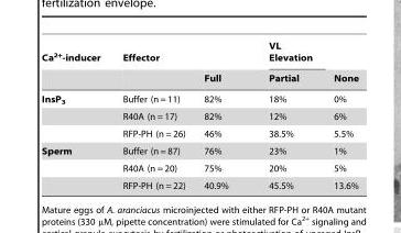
<table><thead><tr><td rowspan="2">Ca<sup>2+</sup>-inducer</td><td rowspan="2">Effector</td><td rowspan="2">Full</td><td rowspan="2">VL Elevation Partial</td><td rowspan="2">None</td></tr><tr></tr></thead><tbody><tr><td rowspan="3">InsP<sub>3</sub></td><td>Buffer (n = 11)</td><td>82%</td><td>18%</td><td>0%</td></tr><tr><td>R40A (n = 17)</td><td>82%</td><td>12%</td><td>6%</td></tr><tr><td>RFP-PH (n = 26)</td><td>46%</td><td>38.5%</td><td>5.5%</td></tr><tr><td rowspan="3">Sperm</td><td>Buffer (n = 87)</td><td>76%</td><td>23%</td><td>1%</td></tr><tr><td>R40A (n = 20)</td><td>75%</td><td>20%</td><td>5%</td></tr><tr><td>RFP-PH (n = 22)</td><td>40.9%</td><td>45.5%</td><td>13.6%</td></tr></tbody></table>